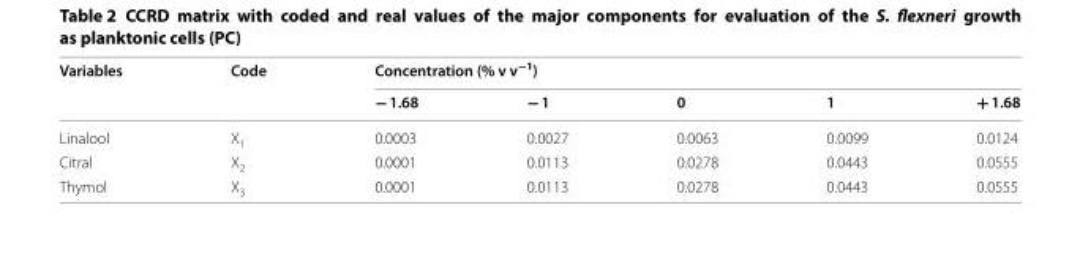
<table><thead><tr><td rowspan="2">Variables</td><td rowspan="2">Code</td><td colspan="5">Concentration (% v v<sup>−1</sup>)</td></tr><tr><td>− 1.68</td><td>− 1</td><td>0</td><td>1</td><td>+ 1.68</td></tr></thead><tbody><tr><td>Linalool</td><td>X<sub>1</sub></td><td>0.0003</td><td>0.0027</td><td>0.0063</td><td>0.0099</td><td>0.0124</td></tr><tr><td>Citral</td><td>X<sub>2</sub></td><td>0.0001</td><td>0.0113</td><td>0.0278</td><td>0.0443</td><td>0.0555</td></tr><tr><td>Thymol</td><td>X<sub>3</sub></td><td>0.0001</td><td>0.0113</td><td>0.0278</td><td>0.0443</td><td>0.0555</td></tr></tbody></table>